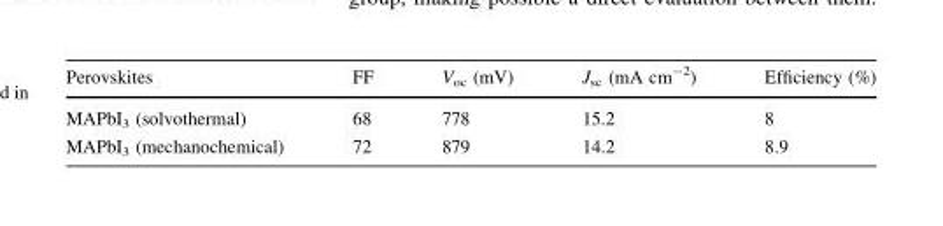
<table><thead><tr><td>Perovskites</td><td>FF</td><td>V<sub>oc</sub> (mV)</td><td>J<sub>sc</sub> (mA cm<sup>-2</sup>)</td><td>Efficiency (%)</td></tr></thead><tbody><tr><td>MAPbI<sub>3</sub> (solvothermal)</td><td>68</td><td>778</td><td>15.2</td><td>8</td></tr><tr><td>MAPbI<sub>3</sub> (mechanochemical)</td><td>72</td><td>879</td><td>14.2</td><td>8.9</td></tr></tbody></table>